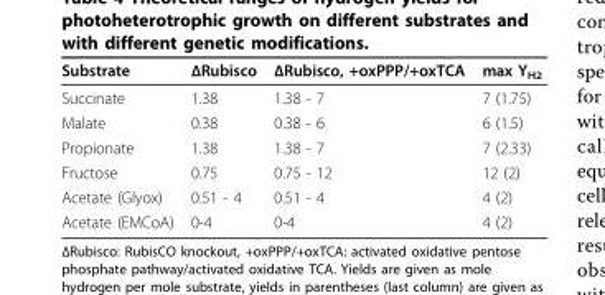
<table><thead><tr><td>Substrate</td><td>ΔRubisco</td><td>ΔRubisco, +oxPPP/+oxTCA</td><td>max Y<sub>H2</sub></td></tr></thead><tbody><tr><td>Succinate</td><td>1.38</td><td>1.38 - 7</td><td>7 (1.75)</td></tr><tr><td>Malate</td><td>0.38</td><td>0.38 - 6</td><td>6 (1.5)</td></tr><tr><td>Propionate</td><td>1.38</td><td>1.38 - 7</td><td>7 (2.33)</td></tr><tr><td>Fructose</td><td>0.75</td><td>0.75 - 12</td><td>12 (2)</td></tr><tr><td>Acetate (Glyox)</td><td>0.51 - 4</td><td>0.51 - 4</td><td>4 (2)</td></tr><tr><td>Acetate (EMCoA)</td><td>0-4</td><td>0-4</td><td>4 (2)</td></tr></tbody></table>